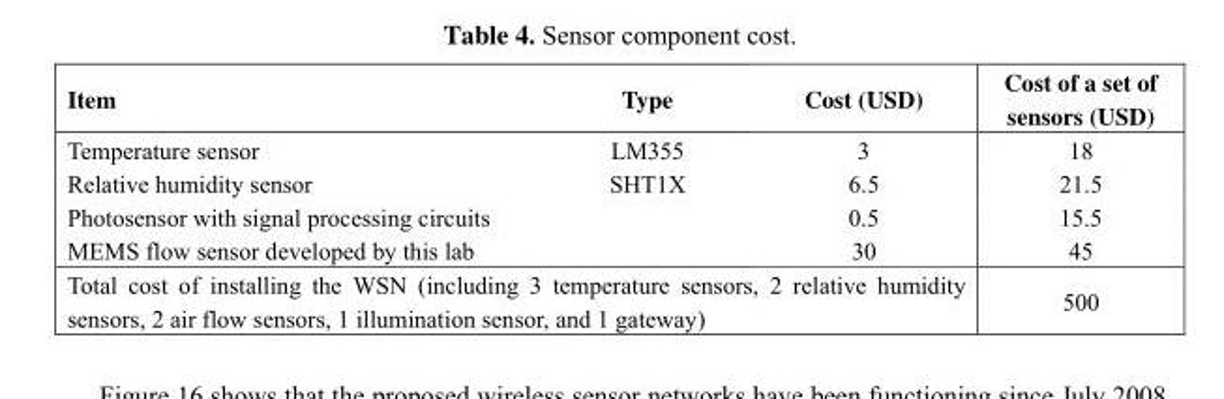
<table><thead><tr><td>Item</td><td>Type</td><td>Cost (USD)</td><td>Cost of a set of sensors (USD)</td></tr></thead><tbody><tr><td>Temperature sensor</td><td>LM355</td><td>3</td><td>18</td></tr><tr><td>Relative humidity sensor</td><td>SHT1X</td><td>6.5</td><td>21.5</td></tr><tr><td>Photosensor with signal processing circuits</td><td></td><td>0.5</td><td>15.5</td></tr><tr><td>MEMS flow sensor developed by this lab</td><td></td><td>30</td><td>45</td></tr><tr><td colspan="3">Total cost of installing the WSN (including 3 temperature sensors, 2 relative humidity sensors, 2 air flow sensors, 1 illumination sensor, and 1 gateway)</td><td>500</td></tr></tbody></table>